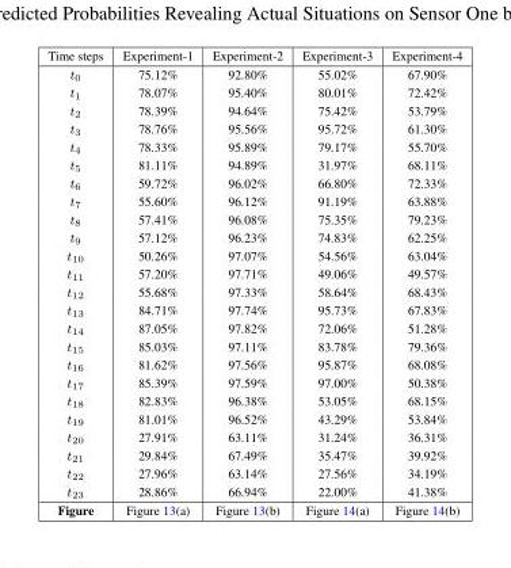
<table><thead><tr><td>Time steps</td><td>Experiment-1</td><td>Experiment-2</td><td>Experiment-3</td><td>Experiment-4</td></tr></thead><tbody><tr><td>t<sub>0</sub></td><td>75.12%</td><td>92.80%</td><td>55.02%</td><td>67.90%</td></tr><tr><td>t<sub>1</sub></td><td>78.07%</td><td>95.40%</td><td>80.01%</td><td>72.42%</td></tr><tr><td>t<sub>2</sub></td><td>78.39%</td><td>94.64%</td><td>75.42%</td><td>53.79%</td></tr><tr><td>t<sub>3</sub></td><td>78.76%</td><td>95.56%</td><td>95.72%</td><td>61.30%</td></tr><tr><td>t<sub>4</sub></td><td>78.33%</td><td>95.89%</td><td>79.17%</td><td>55.70%</td></tr><tr><td>t<sub>5</sub></td><td>81.11%</td><td>94.89%</td><td>31.97%</td><td>68.11%</td></tr><tr><td>t<sub>6</sub></td><td>59.72%</td><td>96.02%</td><td>66.80%</td><td>72.33%</td></tr><tr><td>t<sub>7</sub></td><td>55.60%</td><td>96.12%</td><td>91.19%</td><td>63.88%</td></tr><tr><td>t<sub>8</sub></td><td>57.41%</td><td>96.08%</td><td>75.35%</td><td>79.23%</td></tr><tr><td>t<sub>9</sub></td><td>57.12%</td><td>96.23%</td><td>74.83%</td><td>62.25%</td></tr><tr><td>t<sub>10</sub></td><td>50.26%</td><td>97.07%</td><td>54.56%</td><td>63.04%</td></tr><tr><td>t<sub>11</sub></td><td>57.20%</td><td>97.71%</td><td>49.06%</td><td>49.57%</td></tr><tr><td>t<sub>12</sub></td><td>55.68%</td><td>97.33%</td><td>58.64%</td><td>68.43%</td></tr><tr><td>t<sub>13</sub></td><td>84.71%</td><td>97.74%</td><td>95.73%</td><td>67.83%</td></tr><tr><td>t<sub>14</sub></td><td>87.05%</td><td>97.82%</td><td>72.06%</td><td>51.28%</td></tr><tr><td>t<sub>15</sub></td><td>85.03%</td><td>97.11%</td><td>83.78%</td><td>79.36%</td></tr><tr><td>t<sub>16</sub></td><td>81.62%</td><td>97.56%</td><td>95.87%</td><td>68.08%</td></tr><tr><td>t<sub>17</sub></td><td>85.39%</td><td>97.59%</td><td>97.00%</td><td>50.38%</td></tr><tr><td>t<sub>18</sub></td><td>82.83%</td><td>96.38%</td><td>53.05%</td><td>68.15%</td></tr><tr><td>t<sub>19</sub></td><td>81.01%</td><td>96.52%</td><td>43.29%</td><td>53.84%</td></tr><tr><td>t<sub>20</sub></td><td>27.91%</td><td>63.11%</td><td>31.24%</td><td>36.31%</td></tr><tr><td>t<sub>21</sub></td><td>29.84%</td><td>67.49%</td><td>35.47%</td><td>39.92%</td></tr><tr><td>t<sub>22</sub></td><td>27.96%</td><td>63.14%</td><td>27.56%</td><td>34.19%</td></tr><tr><td>t<sub>23</sub></td><td>28.86%</td><td>66.94%</td><td>22.00%</td><td>41.38%</td></tr><tr><td>Figure</td><td>Figure 13(a)</td><td>Figure 13(b)</td><td>Figure 14(a)</td><td>Figure 14(b)</td></tr></tbody></table>